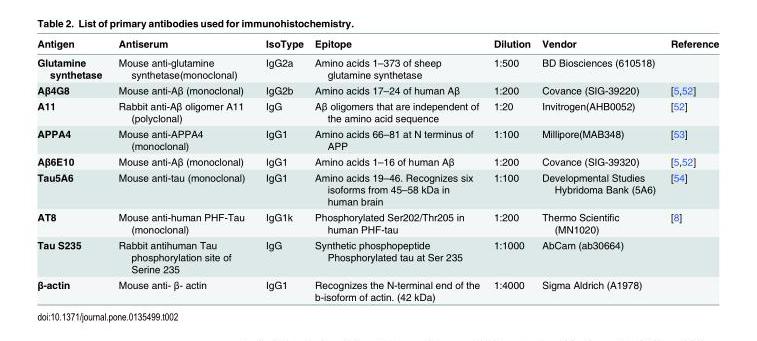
<table><thead><tr><td>Antigen</td><td>Antiserum</td><td>IsoType</td><td>Epitope</td><td>Dilution</td><td>Vendor</td><td>Reference</td></tr></thead><tbody><tr><td>Glutamine synthetase</td><td>Mouse anti-glutamine synthetase(monoclonal)</td><td>IgG2a</td><td>Amino acids 1–373 of sheep glutamine synthetase</td><td>1:500</td><td>BD Biosciences (610518)</td><td></td></tr><tr><td>Aβ4G8</td><td>Mouse anti-Aβ (monoclonal)</td><td>IgG2b</td><td>Amino acids 17–24 of human Aβ</td><td>1:200</td><td>Covance (SIG-39220)</td><td>[5,52]</td></tr><tr><td>A11</td><td>Rabbit anti-Aβ oligomer A11 (polyclonal)</td><td>IgG</td><td>Aβ oligomers that are independent of the amino acid sequence</td><td>1:20</td><td>Invitrogen(AHB0052)</td><td>[52]</td></tr><tr><td>APPA4</td><td>Mouse anti-APPA4 (monoclonal)</td><td>IgG1</td><td>Amino acids 66–81 at N terminus of APP</td><td>1:100</td><td>Millipore(MAB348)</td><td>[53]</td></tr><tr><td>Aβ6E10</td><td>Mouse anti-Aβ (monoclonal)</td><td>IgG1</td><td>Amino acids 1–16 of human Aβ</td><td>1:200</td><td>Covance (SIG-39320)</td><td>[5,52]</td></tr><tr><td>Tau5A6</td><td>Mouse anti-tau (monoclonal)</td><td>IgG1</td><td>Amino acids 19–46. Recognizes six isoforms from 45–58 kDa in human brain</td><td>1:100</td><td>Developmental Studies Hybridoma Bank (5A6)</td><td>[54]</td></tr><tr><td>AT8</td><td>Mouse anti-human PHF-Tau (monoclonal)</td><td>IgG1k</td><td>Phosphorylated Ser202/Thr205 in human PHF-tau</td><td>1:200</td><td>Thermo Scientific (MN1020)</td><td>[8]</td></tr><tr><td>Tau S235</td><td>Rabbit antihuman Tau phosphorylation site of Serine 235</td><td>IgG</td><td>Synthetic phosphopeptide Phosphorylated tau at Ser 235</td><td>1:1000</td><td>AbCam (ab30664)</td><td></td></tr><tr><td>β-actin</td><td>Mouse anti- β- actin</td><td>IgG1</td><td>Recognizes the N-terminal end of the b-isoform of actin. (42 kDa)</td><td>1:4000</td><td>Sigma Aldrich (A1978)</td><td></td></tr></tbody></table>